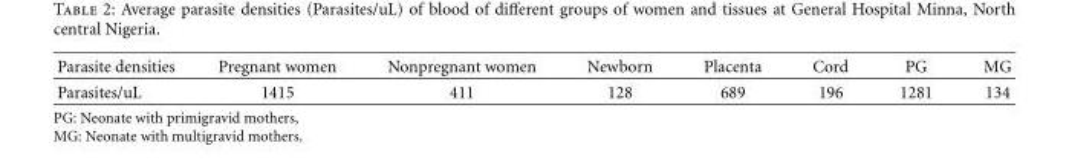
<table><thead><tr><td>Parasite densities</td><td>Pregnant women</td><td>Nonpregnant women</td><td>Newborn</td><td>Placenta</td><td>Cord</td><td>PG</td><td>MG</td></tr></thead><tbody><tr><td>Parasites/uL</td><td>1415</td><td>411</td><td>128</td><td>689</td><td>196</td><td>1281</td><td>134</td></tr></tbody></table>